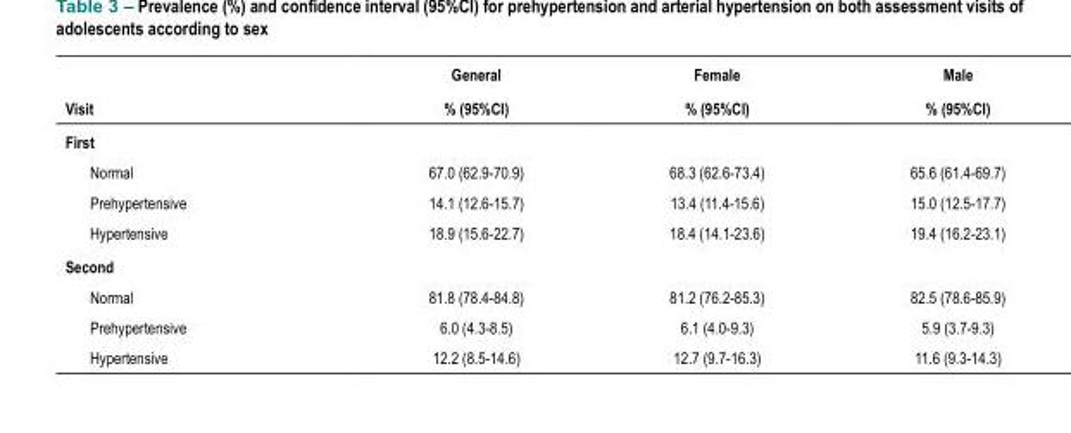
<table><thead><tr><td rowspan="2">Visit</td><td rowspan="2">General % (95%CI)</td><td rowspan="2">Female % (95%CI)</td><td rowspan="2">Male % (95%CI)</td></tr><tr></tr></thead><tbody><tr><td colspan="4">First</td></tr><tr><td>Normal</td><td>67.0 (62.9-70.9)</td><td>68.3 (62.6-73.4)</td><td>65.6 (61.4-69.7)</td></tr><tr><td>Prehypertensive</td><td>14.1 (12.6-15.7)</td><td>13.4 (11.4-15.6)</td><td>15.0 (12.5-17.7)</td></tr><tr><td>Hypertensive</td><td>18.9 (15.6-22.7)</td><td>18.4 (14.1-23.6)</td><td>19.4 (16.2-23.1)</td></tr><tr><td colspan="4">Second</td></tr><tr><td>Normal</td><td>81.8 (78.4-84.8)</td><td>81.2 (76.2-85.3)</td><td>82.5 (78.6-85.9)</td></tr><tr><td>Prehypertensive</td><td>6.0 (4.3-8.5)</td><td>6.1 (4.0-9.3)</td><td>5.9 (3.7-9.3)</td></tr><tr><td>Hypertensive</td><td>12.2 (8.5-14.6)</td><td>12.7 (9.7-16.3)</td><td>11.6 (9.3-14.3)</td></tr></tbody></table>